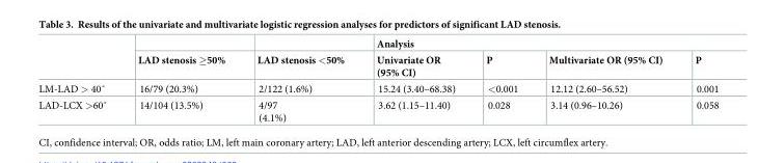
<table><thead><tr><td rowspan="2"></td><td rowspan="2">LAD stenosis ≥50%</td><td rowspan="2">LAD stenosis &lt;50%</td><td colspan="4">Analysis</td></tr><tr><td>Univariate OR (95% CI)</td><td>P</td><td>Multivariate OR (95% CI)</td><td>P</td></tr></thead><tbody><tr><td>LM-LAD &gt; 40˚</td><td>16/79 (20.3%)</td><td>2/122 (1.6%)</td><td>15.24 (3.40–68.38)</td><td>&lt;0.001</td><td>12.12 (2.60–56.52)</td><td>0.001</td></tr><tr><td>LAD-LCX &gt;60˚</td><td>14/104 (13.5%)</td><td>4/97 (4.1%)</td><td>3.62 (1.15–11.40)</td><td>0.028</td><td>3.14 (0.96–10.26)</td><td>0.058</td></tr></tbody></table>